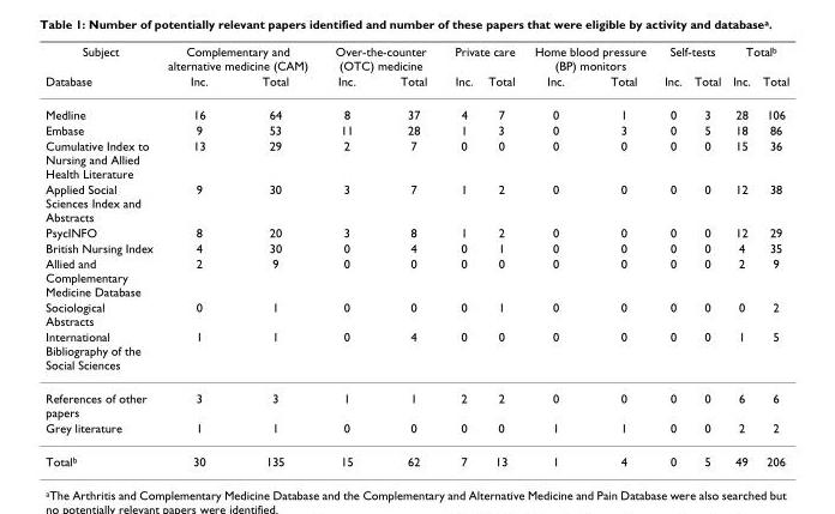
<table><thead><tr><td rowspan="2">Subject Database</td><td colspan="2">Complementary and alternative medicine (CAM)</td><td colspan="2">Over-the-counter (OTC) medicine</td><td colspan="2">Private care</td><td colspan="2">Home blood pressure (BP) monitors</td><td colspan="2">Self-tests</td><td colspan="2">Total<sup>b</sup></td></tr><tr><td>Inc.</td><td>Total</td><td>Inc.</td><td>Total</td><td>Inc.</td><td>Total</td><td>Inc.</td><td>Total</td><td>Inc.</td><td>Total</td><td>Inc.</td><td>Total</td></tr></thead><tbody><tr><td>Medline</td><td>16</td><td>64</td><td>8</td><td>37</td><td>4</td><td>7</td><td>0</td><td>1</td><td>0</td><td>3</td><td>28</td><td>106</td></tr><tr><td>Embase</td><td>9</td><td>53</td><td>11</td><td>28</td><td>1</td><td>3</td><td>0</td><td>3</td><td>0</td><td>5</td><td>18</td><td>86</td></tr><tr><td>Cumulative Index to Nursing and Allied Health Literature</td><td>13</td><td>29</td><td>2</td><td>7</td><td>0</td><td>0</td><td>0</td><td>0</td><td>0</td><td>0</td><td>15</td><td>36</td></tr><tr><td>Applied Social Sciences Index and Abstracts</td><td>9</td><td>30</td><td>3</td><td>7</td><td>1</td><td>2</td><td>0</td><td>0</td><td>0</td><td>0</td><td>12</td><td>38</td></tr><tr><td>PsycINFO</td><td>8</td><td>20</td><td>3</td><td>8</td><td>1</td><td>2</td><td>0</td><td>0</td><td>0</td><td>0</td><td>12</td><td>29</td></tr><tr><td>British Nursing Index</td><td>4</td><td>30</td><td>0</td><td>4</td><td>0</td><td>1</td><td>0</td><td>0</td><td>0</td><td>0</td><td>4</td><td>35</td></tr><tr><td>Allied and Complementary Medicine Database</td><td>2</td><td>9</td><td>0</td><td>0</td><td>0</td><td>0</td><td>0</td><td>0</td><td>0</td><td>0</td><td>2</td><td>9</td></tr><tr><td>Sociological Abstracts</td><td>0</td><td>1</td><td>0</td><td>0</td><td>0</td><td>1</td><td>0</td><td>0</td><td>0</td><td>0</td><td>0</td><td>2</td></tr><tr><td>International Bibliography of the Social Sciences</td><td>1</td><td>1</td><td>0</td><td>4</td><td>0</td><td>0</td><td>0</td><td>0</td><td>0</td><td>0</td><td>1</td><td>5</td></tr><tr><td>References of other papers</td><td>3</td><td>3</td><td>1</td><td>1</td><td>2</td><td>2</td><td>0</td><td>0</td><td>0</td><td>0</td><td>6</td><td>6</td></tr><tr><td>Grey literature</td><td>1</td><td>1</td><td>0</td><td>0</td><td>0</td><td>0</td><td>1</td><td>1</td><td>0</td><td>0</td><td>2</td><td>2</td></tr><tr><td>Total<sup>b</sup></td><td>30</td><td>135</td><td>15</td><td>62</td><td>7</td><td>13</td><td>1</td><td>4</td><td>0</td><td>5</td><td>49</td><td>206</td></tr></tbody></table>